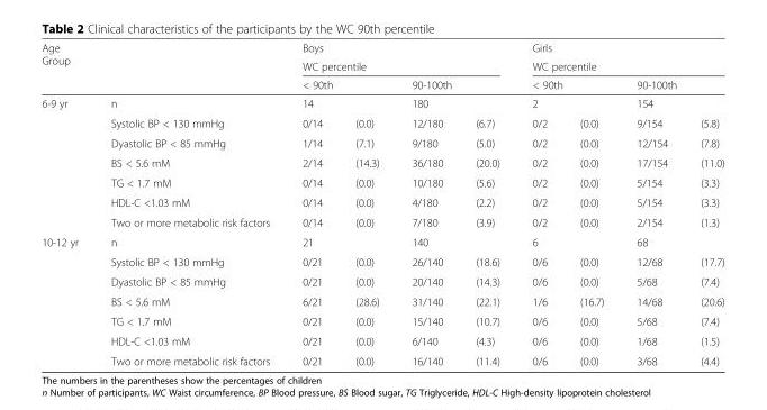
<table><thead><tr><td rowspan="5">Age Group 6-9 yr</td><td rowspan="5">n Systolic BP &lt; 130 mmHg</td><td rowspan="2" colspan="4">Boys WC percentile</td><td rowspan="2" colspan="4">Girls WC percentile</td></tr><tr></tr><tr><td rowspan="2" colspan="2">&lt; 90th 14</td><td rowspan="2" colspan="2">90-100th 180</td><td rowspan="2" colspan="2">&lt; 90th 2</td><td rowspan="2" colspan="2">90-100th 154</td></tr><tr></tr><tr><td>0/14</td><td>(0.0)</td><td>12/180</td><td>(6.7)</td><td>0/2</td><td>(0.0)</td><td>9/154</td><td>(5.8)</td></tr></thead><tbody><tr><td></td><td>Dyastolic BP &lt; 85 mmHg</td><td>1/14</td><td>(7.1)</td><td>9/180</td><td>(5.0)</td><td>0/2</td><td>(0.0)</td><td>12/154</td><td>(7.8)</td></tr><tr><td></td><td>BS &lt; 5.6 mM</td><td>2/14</td><td>(14.3)</td><td>36/180</td><td>(20.0)</td><td>0/2</td><td>(0.0)</td><td>17/154</td><td>(11.0)</td></tr><tr><td></td><td>TG &lt; 1.7 mM</td><td>0/14</td><td>(0.0)</td><td>10/180</td><td>(5.6)</td><td>0/2</td><td>(0.0)</td><td>5/154</td><td>(3.3)</td></tr><tr><td></td><td>HDL-C &lt;1.03 mM</td><td>0/14</td><td>(0.0)</td><td>4/180</td><td>(2.2)</td><td>0/2</td><td>(0.0)</td><td>5/154</td><td>(3.3)</td></tr><tr><td></td><td>Two or more metabolic risk factors</td><td>0/14</td><td>(0.0)</td><td>7/180</td><td>(3.9)</td><td>0/2</td><td>(0.0)</td><td>2/154</td><td>(1.3)</td></tr><tr><td rowspan="7">10-12 yr</td><td>n</td><td colspan="2">21</td><td colspan="2">140</td><td colspan="2">6</td><td colspan="2">68</td></tr><tr><td>Systolic BP &lt; 130 mmHg</td><td>0/21</td><td>(0.0)</td><td>26/140</td><td>(18.6)</td><td>0/6</td><td>(0.0)</td><td>12/68</td><td>(17.7)</td></tr><tr><td>Dyastolic BP &lt; 85 mmHg</td><td>0/21</td><td>(0.0)</td><td>20/140</td><td>(14.3)</td><td>0/6</td><td>(0.0)</td><td>5/68</td><td>(7.4)</td></tr><tr><td>BS &lt; 5.6 mM</td><td>6/21</td><td>(28.6)</td><td>31/140</td><td>(22.1)</td><td>1/6</td><td>(16.7)</td><td>14/68</td><td>(20.6)</td></tr><tr><td>TG &lt; 1.7 mM</td><td>0/21</td><td>(0.0)</td><td>15/140</td><td>(10.7)</td><td>0/6</td><td>(0.0)</td><td>5/68</td><td>(7.4)</td></tr><tr><td>HDL-C &lt;1.03 mM</td><td>0/21</td><td>(0.0)</td><td>6/140</td><td>(4.3)</td><td>0/6</td><td>(0.0)</td><td>1/68</td><td>(1.5)</td></tr><tr><td>Two or more metabolic risk factors</td><td>0/21</td><td>(0.0)</td><td>16/140</td><td>(11.4)</td><td>0/6</td><td>(0.0)</td><td>3/68</td><td>(4.4)</td></tr></tbody></table>